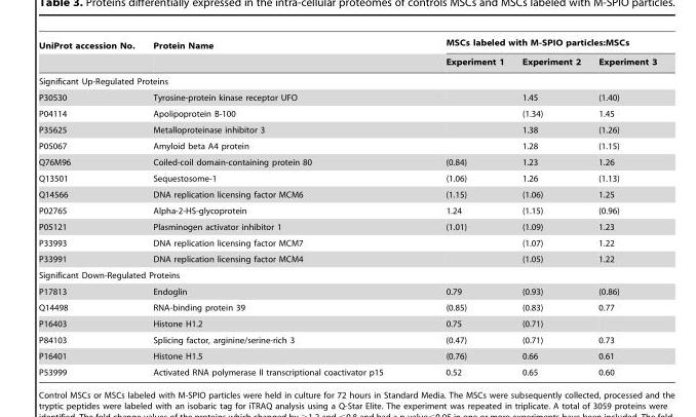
<table><thead><tr><td rowspan="2">UniProt accession No.</td><td rowspan="2">Protein Name</td><td colspan="3">MSCs labeled with M-SPIO particles:MSCs</td></tr><tr><td>Experiment 1</td><td>Experiment 2</td><td>Experiment 3</td></tr></thead><tbody><tr><td colspan="5">Significant Up-Regulated Proteins</td></tr><tr><td>P30530</td><td>Tyrosine-protein kinase receptor UFO</td><td></td><td>1.45</td><td>(1.40)</td></tr><tr><td>P04114</td><td>Apolipoprotein B-100</td><td></td><td>(1.34)</td><td>1.45</td></tr><tr><td>P35625</td><td>Metalloproteinase inhibitor 3</td><td></td><td>1.38</td><td>(1.26)</td></tr><tr><td>P05067</td><td>Amyloid beta A4 protein</td><td></td><td>1.28</td><td>(1.15)</td></tr><tr><td>Q76M96</td><td>Coiled-coil domain-containing protein 80</td><td>(0.84)</td><td>1.23</td><td>1.26</td></tr><tr><td>Q13501</td><td>Sequestosome-1</td><td>(1.06)</td><td>1.26</td><td>(1.13)</td></tr><tr><td>Q14566</td><td>DNA replication licensing factor MCM6</td><td>(1.15)</td><td>(1.06)</td><td>1.25</td></tr><tr><td>P02765</td><td>Alpha-2-HS-glycoprotein</td><td>1.24</td><td>(1.15)</td><td>(0.96)</td></tr><tr><td>P05121</td><td>Plasminogen activator inhibitor 1</td><td>(1.01)</td><td>(1.09)</td><td>1.23</td></tr><tr><td>P33993</td><td>DNA replication licensing factor MCM7</td><td></td><td>(1.07)</td><td>1.22</td></tr><tr><td>P33991</td><td>DNA replication licensing factor MCM4</td><td></td><td>(1.05)</td><td>1.22</td></tr><tr><td colspan="5">Significant Down-Regulated Proteins</td></tr><tr><td>P17813</td><td>Endoglin</td><td>0.79</td><td>(0.93)</td><td>(0.86)</td></tr><tr><td>Q14498</td><td>RNA-binding protein 39</td><td>(0.85)</td><td>(0.83)</td><td>0.77</td></tr><tr><td>P16403</td><td>Histone H1.2</td><td>0.75</td><td>(0.71)</td><td></td></tr><tr><td>P84103</td><td>Splicing factor, arginine/serine-rich 3</td><td>(0.47)</td><td>(0.71)</td><td>0.73</td></tr><tr><td>P16401</td><td>Histone H1.5</td><td>(0.76)</td><td>0.66</td><td>0.61</td></tr><tr><td>P53999</td><td>Activated RNA polymerase II transcriptional coactivator p15</td><td>0.52</td><td>0.65</td><td>0.60</td></tr></tbody></table>